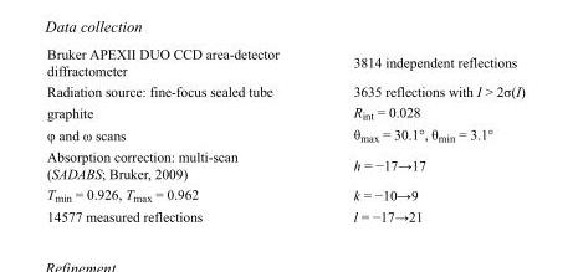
<table><tbody><tr><td>Bruker APEXII DUO CCD area-detector diffractometer</td><td>3814 independent reflections</td></tr><tr><td>Radiation source: fine-focus sealed tube</td><td>3635 reflections with I &gt; 2σ(I)</td></tr><tr><td>graphite</td><td>R<sub>int</sub> = 0.028</td></tr><tr><td>φ and ω scans</td><td>θ<sub>max</sub> = 30.1°, θ<sub>min</sub> = 3.1°</td></tr><tr><td>Absorption correction: multi-scan (SADABS; Bruker, 2009)</td><td>h = −17→17</td></tr><tr><td>T<sub>min</sub> = 0.926, T<sub>max</sub> = 0.962</td><td>k = −10→9</td></tr><tr><td>14577 measured reflections</td><td>l = −17→21</td></tr></tbody></table>